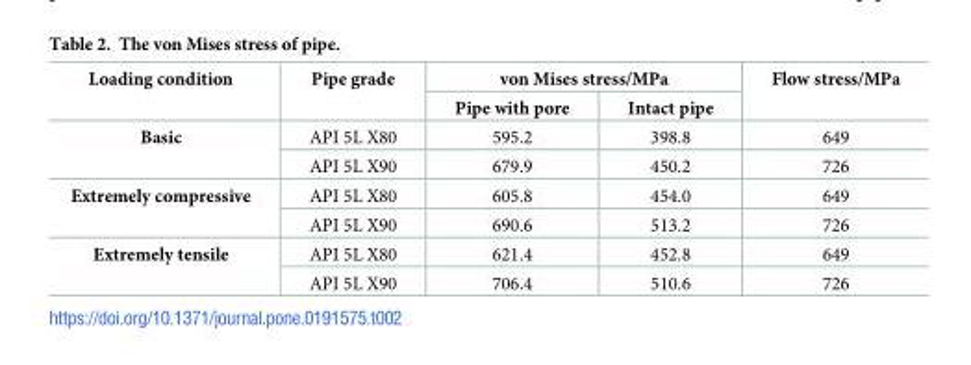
<table><thead><tr><td rowspan="2">Loading condition</td><td rowspan="2">Pipe grade</td><td colspan="2">von Mises stress/MPa</td><td rowspan="2">Flow stress/MPa</td></tr><tr><td>Pipe with pore</td><td>Intact pipe</td></tr></thead><tbody><tr><td rowspan="2">Basic</td><td>API 5L X80</td><td>595.2</td><td>398.8</td><td>649</td></tr><tr><td>API 5L X90</td><td>679.9</td><td>450.2</td><td>726</td></tr><tr><td rowspan="2">Extremely compressive</td><td>API 5L X80</td><td>605.8</td><td>454.0</td><td>649</td></tr><tr><td>API 5L X90</td><td>690.6</td><td>513.2</td><td>726</td></tr><tr><td rowspan="2">Extremely tensile</td><td>API 5L X80</td><td>621.4</td><td>452.8</td><td>649</td></tr><tr><td>API 5L X90</td><td>706.4</td><td>510.6</td><td>726</td></tr></tbody></table>